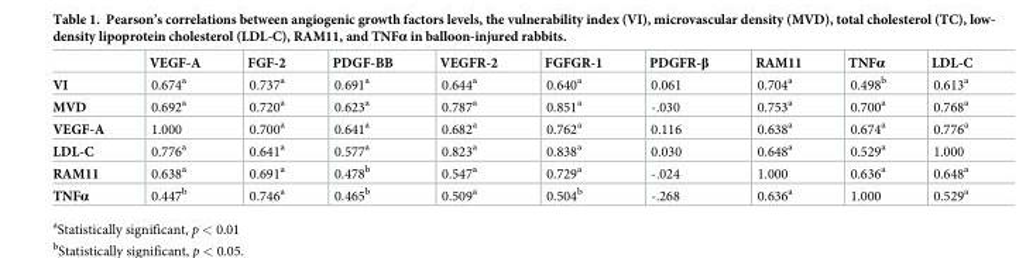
<table><thead><tr><td></td><td>VEGF-A</td><td>FGF-2</td><td>PDGF-BB</td><td>VEGFR-2</td><td>FGFGR-1</td><td>PDGFR-β</td><td>RAM11</td><td>TNFα</td><td>LDL-C</td></tr></thead><tbody><tr><td>VI</td><td>0.674<sup>a</sup></td><td>0.737<sup>a</sup></td><td>0.691<sup>a</sup></td><td>0.644<sup>a</sup></td><td>0.640<sup>a</sup></td><td>0.061</td><td>0.704<sup>a</sup></td><td>0.498<sup>b</sup></td><td>0.613<sup>a</sup></td></tr><tr><td>MVD</td><td>0.692<sup>a</sup></td><td>0.720<sup>a</sup></td><td>0.623<sup>a</sup></td><td>0.787<sup>a</sup></td><td>0.851<sup>a</sup></td><td>-.030</td><td>0.753<sup>a</sup></td><td>0.700<sup>a</sup></td><td>0.768<sup>a</sup></td></tr><tr><td>VEGF-A</td><td>1.000</td><td>0.700<sup>a</sup></td><td>0.641<sup>a</sup></td><td>0.682<sup>a</sup></td><td>0.762<sup>a</sup></td><td>0.116</td><td>0.638<sup>a</sup></td><td>0.674<sup>a</sup></td><td>0.776<sup>a</sup></td></tr><tr><td>LDL-C</td><td>0.776<sup>a</sup></td><td>0.641<sup>a</sup></td><td>0.577<sup>a</sup></td><td>0.823<sup>a</sup></td><td>0.838<sup>a</sup></td><td>0.030</td><td>0.648<sup>a</sup></td><td>0.529<sup>a</sup></td><td>1.000</td></tr><tr><td>RAM11</td><td>0.638<sup>a</sup></td><td>0.691<sup>a</sup></td><td>0.478<sup>b</sup></td><td>0.547<sup>a</sup></td><td>0.729<sup>a</sup></td><td>-.024</td><td>1.000</td><td>0.636<sup>a</sup></td><td>0.648<sup>a</sup></td></tr><tr><td>TNFα</td><td>0.447<sup>b</sup></td><td>0.746<sup>a</sup></td><td>0.465<sup>b</sup></td><td>0.509<sup>a</sup></td><td>0.504<sup>b</sup></td><td>-.268</td><td>0.636<sup>a</sup></td><td>1.000</td><td>0.529<sup>a</sup></td></tr></tbody></table>